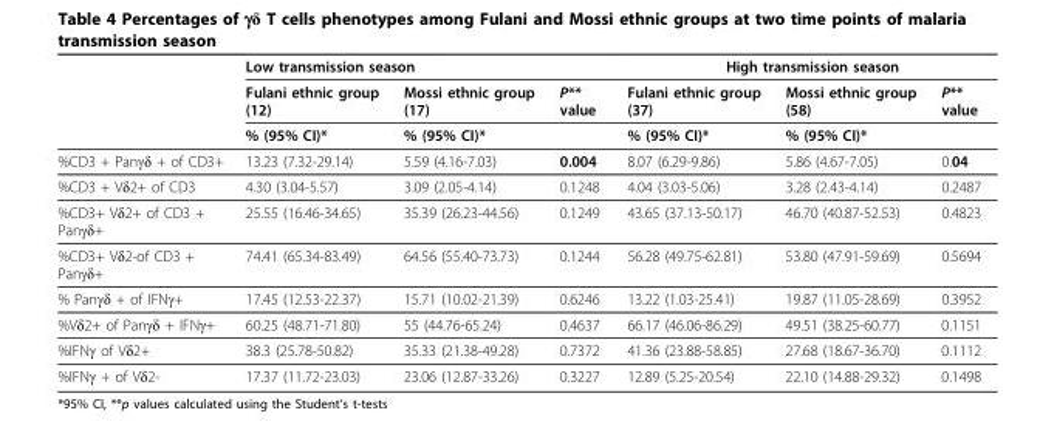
<table><thead><tr><td rowspan="3"></td><td colspan="3">Low transmission season</td><td colspan="3">High transmission season</td></tr><tr><td rowspan="2">Fulani ethnic group (12) % (95% CI)*</td><td rowspan="2">Mossi ethnic group (17) % (95% CI)*</td><td rowspan="2">P** value</td><td rowspan="2">Fulani ethnic group (37) % (95% CI)*</td><td rowspan="2">Mossi ethnic group (58) % (95% CI)*</td><td rowspan="2">P** value</td></tr><tr></tr></thead><tbody><tr><td>%CD3 + Panγδ + of CD3+</td><td>13.23 (7.32-29.14)</td><td>5.59 (4.16-7.03)</td><td>0.004</td><td>8.07 (6.29-9.86)</td><td>5.86 (4.67-7.05)</td><td>0.04</td></tr><tr><td>%CD3 + Vδ2+ of CD3</td><td>4.30 (3.04-5.57)</td><td>3.09 (2.05-4.14)</td><td>0.1248</td><td>4.04 (3.03-5.06)</td><td>3.28 (2.43-4.14)</td><td>0.2487</td></tr><tr><td>%CD3+ Vδ2+ of CD3 + Panγδ+</td><td>25.55 (16.46-34.65)</td><td>35.39 (26.23-44.56)</td><td>0.1249</td><td>43.65 (37.13-50.17)</td><td>46.70 (40.87-52.53)</td><td>0.4823</td></tr><tr><td>%CD3+ Vδ2-of CD3 + Panγδ+</td><td>74.41 (65.34-83.49)</td><td>64.56 (55.40-73.73)</td><td>0.1244</td><td>56.28 (49.75-62.81)</td><td>53.80 (47.91-59.69)</td><td>0.5694</td></tr><tr><td>% Panγδ + of IFNγ+</td><td>17.45 (12.53-22.37)</td><td>15.71 (10.02-21.39)</td><td>0.6246</td><td>13.22 (1.03-25.41)</td><td>19.87 (11.05-28.69)</td><td>0.3952</td></tr><tr><td>%Vδ2+ of Panγδ + IFNγ+</td><td>60.25 (48.71-71.80)</td><td>55 (44.76-65.24)</td><td>0.4637</td><td>66.17 (46.06-86.29)</td><td>49.51 (38.25-60.77)</td><td>0.1151</td></tr><tr><td>%IFNγ of Vδ2+</td><td>38.3 (25.78-50.82)</td><td>35.33 (21.38-49.28)</td><td>0.7372</td><td>41.36 (23.88-58.85)</td><td>27.68 (18.67-36.70)</td><td>0.1112</td></tr><tr><td>%IFNγ + of Vδ2-</td><td>17.37 (11.72-23.03)</td><td>23.06 (12.87-33.26)</td><td>0.3227</td><td>12.89 (5.25-20.54)</td><td>22.10 (14.88-29.32)</td><td>0.1498</td></tr></tbody></table>